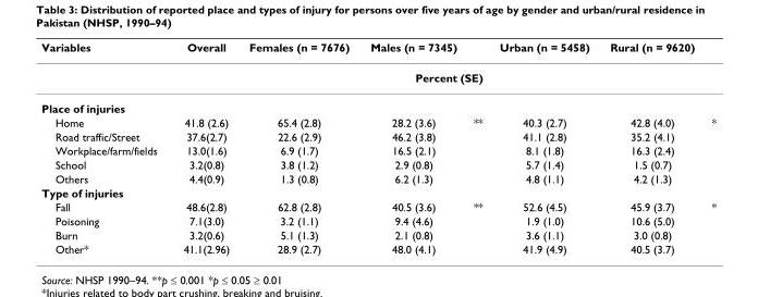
<table><thead><tr><td>Variables</td><td>Overall</td><td>Females (n = 7676)</td><td>Males (n = 7345)</td><td></td><td>Urban (n = 5458)</td><td>Rural (n = 9620)</td><td></td></tr></thead><tbody><tr><td></td><td colspan="7">Percent (SE)</td></tr><tr><td colspan="8">Place of injuries</td></tr><tr><td>Home</td><td>41.8 (2.6)</td><td>65.4 (2.8)</td><td>28.2 (3.6)</td><td>**</td><td>40.3 (2.7)</td><td>42.8 (4.0)</td><td>*</td></tr><tr><td>Road traffic/Street</td><td>37.6(2.7)</td><td>22.6 (2.9)</td><td>46.2 (3.8)</td><td></td><td>41.1 (2.8)</td><td>35.2 (4.1)</td><td></td></tr><tr><td>Workplace/farm/fields</td><td>13.0(1.6)</td><td>6.9 (1.7)</td><td>16.5 (2.1)</td><td></td><td>8.1 (1.8)</td><td>16.3 (2.4)</td><td></td></tr><tr><td>School</td><td>3.2(0.8)</td><td>3.8 (1.2)</td><td>2.9 (0.8)</td><td></td><td>5.7 (1.4)</td><td>1.5 (0.7)</td><td></td></tr><tr><td>Others</td><td>4.4(0.9)</td><td>1.3 (0.8)</td><td>6.2 (1.3)</td><td></td><td>4.8 (1.1)</td><td>4.2 (1.3)</td><td></td></tr><tr><td colspan="8">Type of injuries</td></tr><tr><td>Fall</td><td>48.6(2.8)</td><td>62.8 (2.8)</td><td>40.5 (3.6)</td><td>**</td><td>52.6 (4.5)</td><td>45.9 (3.7)</td><td>*</td></tr><tr><td>Poisoning</td><td>7.1(3.0)</td><td>3.2 (1.1)</td><td>9.4 (4.6)</td><td></td><td>1.9 (1.0)</td><td>10.6 (5.0)</td><td></td></tr><tr><td>Burn</td><td>3.2(0.6)</td><td>5.1 (1.3)</td><td>2.1 (0.8)</td><td></td><td>3.6 (1.1)</td><td>3.0 (0.8)</td><td></td></tr><tr><td>Other*</td><td>41.1(2.96)</td><td>28.9 (2.7)</td><td>48.0 (4.1)</td><td></td><td>41.9 (4.9)</td><td>40.5 (3.7)</td><td></td></tr></tbody></table>